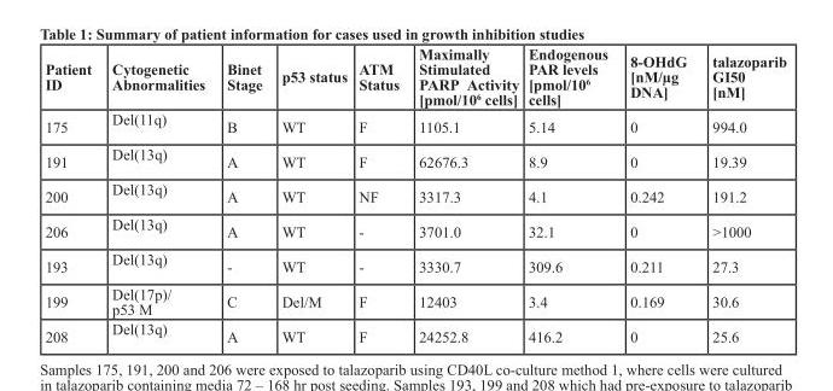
<table><thead><tr><td>Patient ID</td><td>Cytogenetic Abnormalities</td><td>Binet Stage</td><td>p53 status</td><td>ATM Status</td><td>Maximally Stimulated PARP Activity [pmol/106 cells]</td><td>Endogenous PAR levels [pmol/10<sup>6</sup> cells]</td><td>8-OHdG [nM/µg DNA]</td><td>talazoparib GI50 [nM]</td></tr></thead><tbody><tr><td>175</td><td>Del(11q)</td><td>B</td><td>WT</td><td>F</td><td>1105.1</td><td>5.14</td><td>0</td><td>994.0</td></tr><tr><td>191</td><td>Del(13q)</td><td>A</td><td>WT</td><td>F</td><td>62676.3</td><td>8.9</td><td>0</td><td>19.39</td></tr><tr><td>200</td><td>Del(13q)</td><td>A</td><td>WT</td><td>NF</td><td>3317.3</td><td>4.1</td><td>0.242</td><td>191.2</td></tr><tr><td>206</td><td>Del(13q)</td><td>A</td><td>WT</td><td>-</td><td>3701.0</td><td>32.1</td><td>0</td><td>&gt;1000</td></tr><tr><td>193</td><td>Del(13q)</td><td>-</td><td>WT</td><td>-</td><td>3330.7</td><td>309.6</td><td>0.211</td><td>27.3</td></tr><tr><td>199</td><td>Del(17p)/ p53 M</td><td>C</td><td>Del/M</td><td>F</td><td>12403</td><td>3.4</td><td>0.169</td><td>30.6</td></tr><tr><td>208</td><td>Del(13q)</td><td>A</td><td>WT</td><td>F</td><td>24252.8</td><td>416.2</td><td>0</td><td>25.6</td></tr></tbody></table>